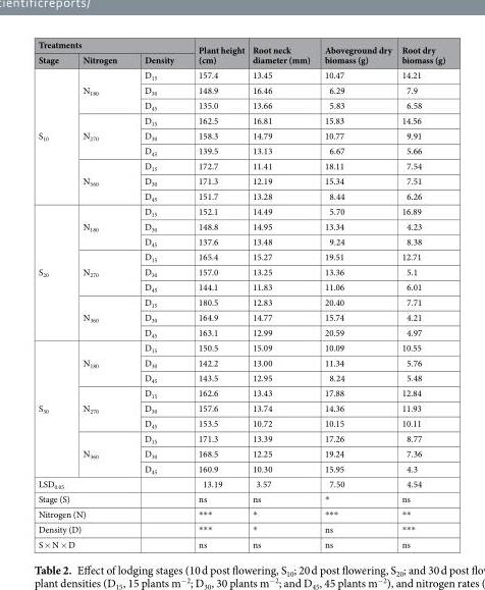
<table><thead><tr><td colspan="3">Treatments</td><td rowspan="2">Plant height (cm)</td><td rowspan="2">Root neck diameter (mm)</td><td rowspan="2">Aboveground dry biomass (g)</td><td rowspan="2">Root dry biomass (g)</td></tr><tr><td>Stage</td><td>Nitrogen</td><td>Density</td></tr></thead><tbody><tr><td rowspan="9">S<sub>10</sub></td><td rowspan="3">N<sub>180</sub></td><td>D<sub>15</sub></td><td>157.4</td><td>13.45</td><td>10.47</td><td>14.21</td></tr><tr><td>D<sub>30</sub></td><td>148.9</td><td>16.46</td><td>6.29</td><td>7.9</td></tr><tr><td>D<sub>45</sub></td><td>135.0</td><td>13.66</td><td>5.83</td><td>6.58</td></tr><tr><td rowspan="3">N<sub>270</sub></td><td>D<sub>15</sub></td><td>162.5</td><td>16.81</td><td>15.83</td><td>14.56</td></tr><tr><td>D<sub>30</sub></td><td>158.3</td><td>14.79</td><td>10.77</td><td>9.91</td></tr><tr><td>D<sub>45</sub></td><td>139.5</td><td>13.13</td><td>6.67</td><td>5.66</td></tr><tr><td rowspan="3">N<sub>360</sub></td><td>D<sub>15</sub></td><td>172.7</td><td>11.41</td><td>18.11</td><td>7.54</td></tr><tr><td>D<sub>30</sub></td><td>171.3</td><td>12.19</td><td>15.34</td><td>7.51</td></tr><tr><td>D<sub>45</sub></td><td>151.7</td><td>13.28</td><td>8.44</td><td>6.26</td></tr><tr><td rowspan="9">S<sub>20</sub></td><td rowspan="3">N<sub>180</sub></td><td>D<sub>15</sub></td><td>152.1</td><td>14.49</td><td>5.70</td><td>16.89</td></tr><tr><td>D<sub>30</sub></td><td>148.8</td><td>14.95</td><td>13.34</td><td>4.23</td></tr><tr><td>D<sub>45</sub></td><td>137.6</td><td>13.48</td><td>9.24</td><td>8.38</td></tr><tr><td rowspan="3">N<sub>270</sub></td><td>D<sub>15</sub></td><td>165.4</td><td>15.27</td><td>19.51</td><td>12.71</td></tr><tr><td>D<sub>30</sub></td><td>157.0</td><td>13.25</td><td>13.36</td><td>5.1</td></tr><tr><td>D<sub>45</sub></td><td>144.1</td><td>11.83</td><td>11.06</td><td>6.01</td></tr><tr><td rowspan="3">N<sub>360</sub></td><td>D<sub>15</sub></td><td>180.5</td><td>12.83</td><td>20.40</td><td>7.71</td></tr><tr><td>D<sub>30</sub></td><td>164.9</td><td>14.77</td><td>15.74</td><td>4.21</td></tr><tr><td>D<sub>45</sub></td><td>163.1</td><td>12.99</td><td>20.59</td><td>4.97</td></tr><tr><td rowspan="9">S<sub>30</sub></td><td rowspan="3">N<sub>180</sub></td><td>D<sub>15</sub></td><td>150.5</td><td>15.09</td><td>10.09</td><td>10.55</td></tr><tr><td>D<sub>30</sub></td><td>142.2</td><td>13.00</td><td>11.34</td><td>5.76</td></tr><tr><td>D<sub>45</sub></td><td>143.5</td><td>12.95</td><td>8.24</td><td>5.48</td></tr><tr><td rowspan="3">N<sub>270</sub></td><td>D<sub>15</sub></td><td>162.6</td><td>13.43</td><td>17.88</td><td>12.84</td></tr><tr><td>D<sub>30</sub></td><td>157.6</td><td>13.74</td><td>14.36</td><td>11.93</td></tr><tr><td>D<sub>45</sub></td><td>153.5</td><td>10.72</td><td>10.15</td><td>10.11</td></tr><tr><td rowspan="3">N<sub>360</sub></td><td>D<sub>15</sub></td><td>171.3</td><td>13.39</td><td>17.26</td><td>8.77</td></tr><tr><td>D<sub>30</sub></td><td>168.5</td><td>12.25</td><td>19.24</td><td>7.36</td></tr><tr><td>D<sub>45</sub></td><td>160.9</td><td>10.30</td><td>15.95</td><td>4.3</td></tr><tr><td colspan="2">LSD<sub>0.05</sub></td><td></td><td>13.19</td><td>3.57</td><td>7.50</td><td>4.54</td></tr><tr><td colspan="2">Stage (S)</td><td></td><td>ns</td><td>ns</td><td>*</td><td>ns</td></tr><tr><td colspan="2">Nitrogen (N)</td><td></td><td>***</td><td>*</td><td>***</td><td>**</td></tr><tr><td colspan="2">Density (D)</td><td></td><td>***</td><td>*</td><td>ns</td><td>***</td></tr><tr><td colspan="2">S × N × D</td><td></td><td>ns</td><td>ns</td><td>ns</td><td>ns</td></tr></tbody></table>